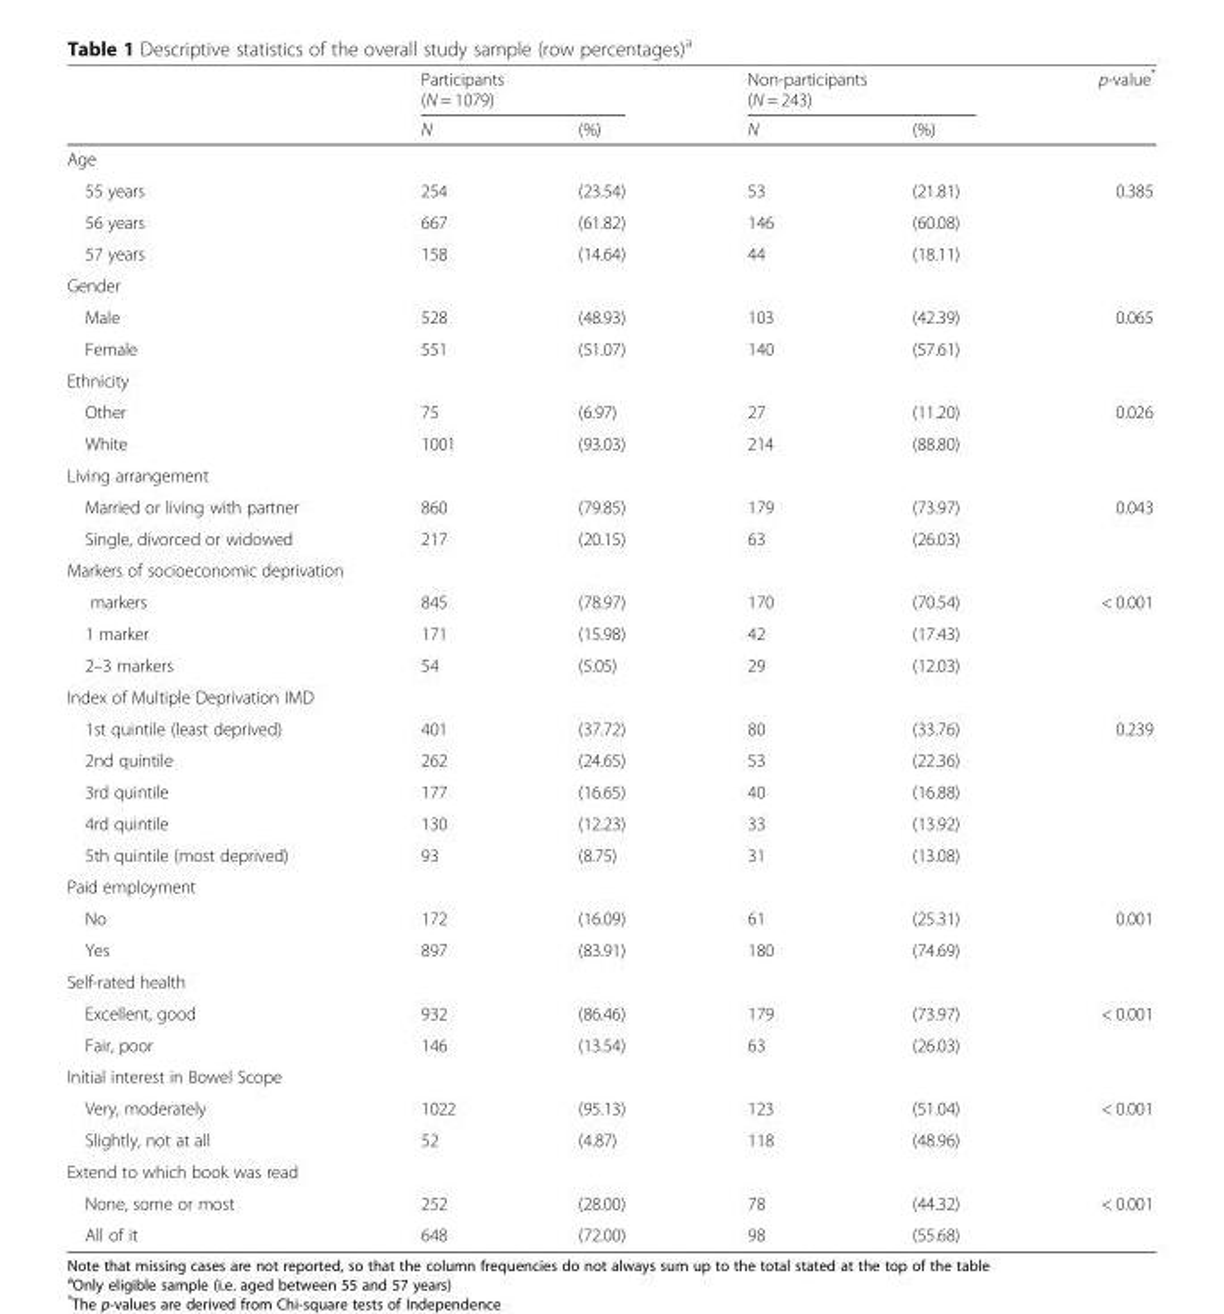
<table><thead><tr><td rowspan="2"></td><td colspan="2">Participants (N = 1079)</td><td colspan="2">Non-participants (N = 243)</td><td rowspan="2">p-value*</td></tr><tr><td>N</td><td>(%)</td><td>N</td><td>(%)</td></tr></thead><tbody><tr><td colspan="6">Age</td></tr><tr><td>55 years</td><td>254</td><td>(23.54)</td><td>53</td><td>(21.81)</td><td rowspan="3">0.385</td></tr><tr><td>56 years</td><td>667</td><td>(61.82)</td><td>146</td><td>(60.08)</td></tr><tr><td>57 years</td><td>158</td><td>(14.64)</td><td>44</td><td>(18.11)</td></tr><tr><td colspan="6">Gender</td></tr><tr><td>Male</td><td>528</td><td>(48.93)</td><td>103</td><td>(42.39)</td><td rowspan="2">0.065</td></tr><tr><td>Female</td><td>551</td><td>(51.07)</td><td>140</td><td>(57.61)</td></tr><tr><td colspan="6">Ethnicity</td></tr><tr><td>Other</td><td>75</td><td>(6.97)</td><td>27</td><td>(11.20)</td><td rowspan="2">0.026</td></tr><tr><td>White</td><td>1001</td><td>(93.03)</td><td>214</td><td>(88.80)</td></tr><tr><td colspan="6">Living arrangement</td></tr><tr><td>Married or living with partner</td><td>860</td><td>(79.85)</td><td>179</td><td>(73.97)</td><td rowspan="2">0.043</td></tr><tr><td>Single, divorced or widowed</td><td>217</td><td>(20.15)</td><td>63</td><td>(26.03)</td></tr><tr><td colspan="6">Markers of socioeconomic deprivation</td></tr><tr><td>markers</td><td>845</td><td>(78.97)</td><td>170</td><td>(70.54)</td><td rowspan="3">&lt; 0.001</td></tr><tr><td>1 marker</td><td>171</td><td>(15.98)</td><td>42</td><td>(17.43)</td></tr><tr><td>2–3 markers</td><td>54</td><td>(5.05)</td><td>29</td><td>(12.03)</td></tr><tr><td colspan="6">Index of Multiple Deprivation IMD</td></tr><tr><td>1st quintile (least deprived)</td><td>401</td><td>(37.72)</td><td>80</td><td>(33.76)</td><td rowspan="5">0.239</td></tr><tr><td>2nd quintile</td><td>262</td><td>(24.65)</td><td>53</td><td>(22.36)</td></tr><tr><td>3rd quintile</td><td>177</td><td>(16.65)</td><td>40</td><td>(16.88)</td></tr><tr><td>4rd quintile</td><td>130</td><td>(12.23)</td><td>33</td><td>(13.92)</td></tr><tr><td>5th quintile (most deprived)</td><td>93</td><td>(8.75)</td><td>31</td><td>(13.08)</td></tr><tr><td colspan="6">Paid employment</td></tr><tr><td>No</td><td>172</td><td>(16.09)</td><td>61</td><td>(25.31)</td><td rowspan="2">0.001</td></tr><tr><td>Yes</td><td>897</td><td>(83.91)</td><td>180</td><td>(74.69)</td></tr><tr><td colspan="6">Self-rated health</td></tr><tr><td>Excellent, good</td><td>932</td><td>(86.46)</td><td>179</td><td>(73.97)</td><td rowspan="2">&lt; 0.001</td></tr><tr><td>Fair, poor</td><td>146</td><td>(13.54)</td><td>63</td><td>(26.03)</td></tr><tr><td colspan="6">Initial interest in Bowel Scope</td></tr><tr><td>Very, moderately</td><td>1022</td><td>(95.13)</td><td>123</td><td>(51.04)</td><td rowspan="2">&lt; 0.001</td></tr><tr><td>Slightly, not at all</td><td>52</td><td>(4.87)</td><td>118</td><td>(48.96)</td></tr><tr><td colspan="6">Extend to which book was read</td></tr><tr><td>None, some or most</td><td>252</td><td>(28.00)</td><td>78</td><td>(44.32)</td><td rowspan="2">&lt; 0.001</td></tr><tr><td>All of it</td><td>648</td><td>(72.00)</td><td>98</td><td>(55.68)</td></tr></tbody></table>